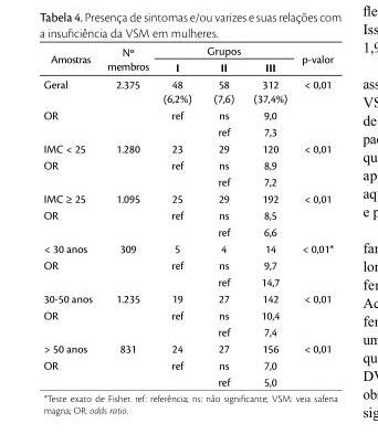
<table><thead><tr><td rowspan="2">Amostras</td><td rowspan="2">Nº membros</td><td colspan="3">Grupos</td><td rowspan="2">p-valor</td></tr><tr><td>I</td><td>II</td><td>III</td></tr></thead><tbody><tr><td>Geral</td><td>2.375</td><td>48 (6,2%)</td><td>58 (7,6)</td><td>312 (37,4%)</td><td>&lt; 0,01</td></tr><tr><td rowspan="2">OR</td><td></td><td>ref</td><td>ns</td><td>9,0</td><td></td></tr><tr><td></td><td></td><td>ref</td><td>7,3</td><td></td></tr><tr><td>IMC &lt; 25</td><td>1.280</td><td>23</td><td>29</td><td>120</td><td>&lt; 0,01</td></tr><tr><td rowspan="2">OR</td><td></td><td>ref</td><td>ns</td><td>8,9</td><td></td></tr><tr><td></td><td></td><td>ref</td><td>7,2</td><td></td></tr><tr><td>IMC ≥ 25</td><td>1.095</td><td>25</td><td>29</td><td>192</td><td>&lt; 0,01</td></tr><tr><td rowspan="2">OR</td><td></td><td>ref</td><td>ns</td><td>8,5</td><td></td></tr><tr><td></td><td></td><td>ref</td><td>6,6</td><td></td></tr><tr><td>&lt; 30 anos</td><td>309</td><td>5</td><td>4</td><td>14</td><td>&lt; 0,01*</td></tr><tr><td rowspan="2">OR</td><td></td><td>ref</td><td>ns</td><td>9,7</td><td></td></tr><tr><td></td><td></td><td>ref</td><td>14,7</td><td></td></tr><tr><td>30-50 anos</td><td>1.235</td><td>19</td><td>27</td><td>142</td><td>&lt; 0,01</td></tr><tr><td rowspan="2">OR</td><td></td><td>ref</td><td>ns</td><td>10,4</td><td></td></tr><tr><td></td><td></td><td>ref</td><td>7,4</td><td></td></tr><tr><td>&gt; 50 anos</td><td>831</td><td>24</td><td>27</td><td>156</td><td>&lt; 0,01</td></tr><tr><td rowspan="2">OR</td><td></td><td>ref</td><td>ns</td><td>7,0</td><td></td></tr><tr><td></td><td></td><td>ref</td><td>5,0</td><td></td></tr></tbody></table>